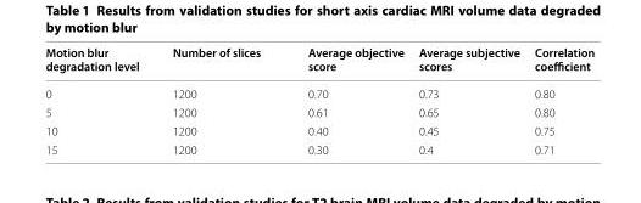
<table><thead><tr><td>Motion blur degradation level</td><td>Number of slices</td><td>Average objective score</td><td>Average subjective scores</td><td>Correlation coefficient</td></tr></thead><tbody><tr><td>0</td><td>1200</td><td>0.70</td><td>0.73</td><td>0.80</td></tr><tr><td>5</td><td>1200</td><td>0.61</td><td>0.65</td><td>0.80</td></tr><tr><td>10</td><td>1200</td><td>0.40</td><td>0.45</td><td>0.75</td></tr><tr><td>15</td><td>1200</td><td>0.30</td><td>0.4</td><td>0.71</td></tr></tbody></table>